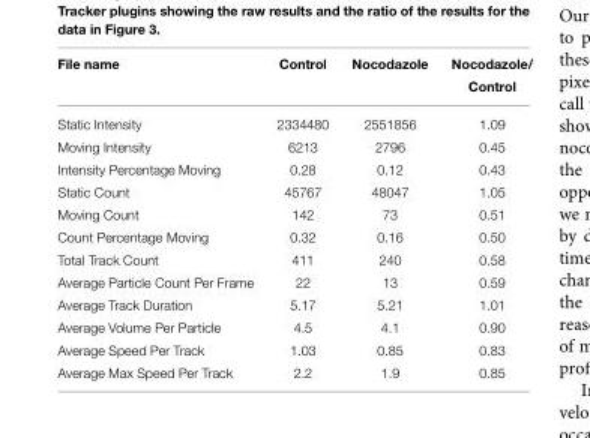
<table><thead><tr><td>File name</td><td>Control</td><td>Nocodazole</td><td>Nocodazole/ Control</td></tr></thead><tbody><tr><td>Static Intensity</td><td>2334480</td><td>2551856</td><td>1.09</td></tr><tr><td>Moving Intensity</td><td>6213</td><td>2796</td><td>0.45</td></tr><tr><td>Intensity Percentage Moving</td><td>0.28</td><td>0.12</td><td>0.43</td></tr><tr><td>Static Count</td><td>45767</td><td>48047</td><td>1.05</td></tr><tr><td>Moving Count</td><td>142</td><td>73</td><td>0.51</td></tr><tr><td>Count Percentage Moving</td><td>0.32</td><td>0.16</td><td>0.50</td></tr><tr><td>Total Track Count</td><td>411</td><td>240</td><td>0.58</td></tr><tr><td>Average Particle Count Per Frame</td><td>22</td><td>13</td><td>0.59</td></tr><tr><td>Average Track Duration</td><td>5.17</td><td>5.21</td><td>1.01</td></tr><tr><td>Average Volume Per Particle</td><td>4.5</td><td>4.1</td><td>0.90</td></tr><tr><td>Average Speed Per Track</td><td>1.03</td><td>0.85</td><td>0.83</td></tr><tr><td>Average Max Speed Per Track</td><td>2.2</td><td>1.9</td><td>0.85</td></tr></tbody></table>